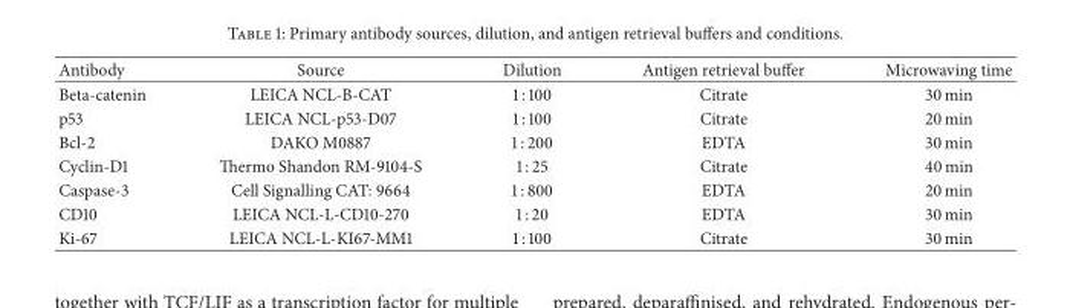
<table><thead><tr><td>Antibody</td><td>Source</td><td>Dilution</td><td>Antigen retrieval buffer</td><td>Microwaving time</td></tr></thead><tbody><tr><td>Beta-catenin</td><td>LEICA NCL-B-CAT</td><td>1 : 100</td><td>Citrate</td><td>30 min</td></tr><tr><td>p53</td><td>LEICA NCL-p53-D07</td><td>1 : 100</td><td>Citrate</td><td>20 min</td></tr><tr><td>Bcl-2</td><td>DAKO M0887</td><td>1 : 200</td><td>EDTA</td><td>30 min</td></tr><tr><td>Cyclin-D1</td><td>Thermo Shandon RM-9104-S</td><td>1 : 25</td><td>Citrate</td><td>40 min</td></tr><tr><td>Caspase-3</td><td>Cell Signalling CAT: 9664</td><td>1 : 800</td><td>EDTA</td><td>20 min</td></tr><tr><td>CD10</td><td>LEICA NCL-L-CD10-270</td><td>1 : 20</td><td>EDTA</td><td>30 min</td></tr><tr><td>Ki-67</td><td>LEICA NCL-L-KI67-MM1</td><td>1 : 100</td><td>Citrate</td><td>30 min</td></tr></tbody></table>